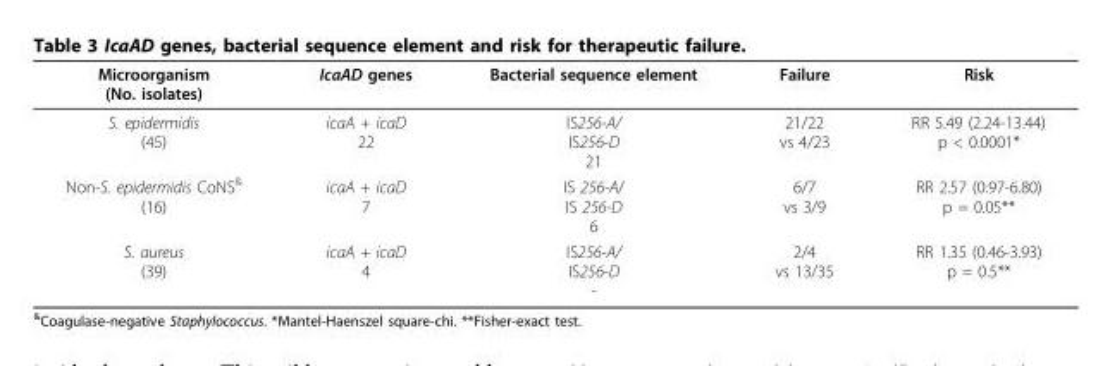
<table><thead><tr><td>Microorganism (No. isolates)</td><td>IcaAD genes</td><td>Bacterial sequence element</td><td>Failure</td><td>Risk</td></tr></thead><tbody><tr><td>S. epidermidis (45)</td><td>icaA + icaD 22</td><td>IS256-A/ IS256-D 21</td><td>21/22 vs 4/23</td><td>RR 5.49 (2.24-13.44) p &lt; 0.0001*</td></tr><tr><td>Non-S. epidermidis CoNS<sup>&amp;</sup> (16)</td><td>icaA + icaD 7</td><td>IS 256-A/ IS 256-D 6</td><td>6/7 vs 3/9</td><td>RR 2.57 (0.97-6.80) p = 0.05**</td></tr><tr><td>S. aureus (39)</td><td>icaA + icaD 4</td><td>IS256-A/ IS256-D -</td><td>2/4 vs 13/35</td><td>RR 1.35 (0.46-3.93) p = 0.5**</td></tr></tbody></table>